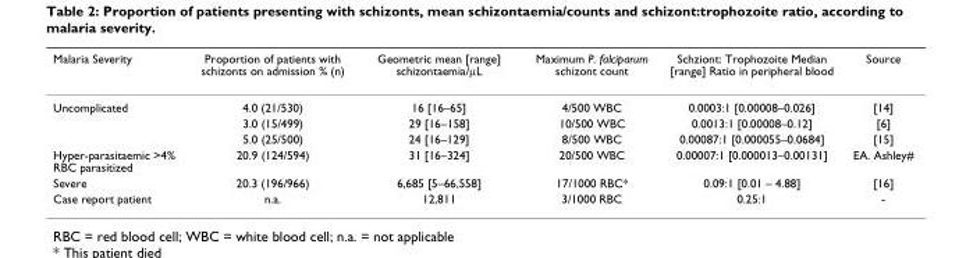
<table><thead><tr><td>Malaria Severity</td><td>Proportion of patients with schizonts on admission % (n)</td><td>Geometric mean [range] schizontaemia/µL</td><td>Maximum P. falciparum schizont count</td><td>Schziont: Trophozoite Median [range] Ratio in peripheral blood</td><td>Source</td></tr></thead><tbody><tr><td rowspan="3">Uncomplicated</td><td>4.0 (21/530)</td><td>16 [16–65]</td><td>4/500 WBC</td><td>0.0003:1 [0.00008–0.026]</td><td>[14]</td></tr><tr><td>3.0 (15/499)</td><td>29 [16–158]</td><td>10/500 WBC</td><td>0.0013:1 [0.00008–0.12]</td><td>[6]</td></tr><tr><td>5.0 (25/500)</td><td>24 [16–129]</td><td>8/500 WBC</td><td>0.00087:1 [0.000055–0.0684]</td><td>[15]</td></tr><tr><td>Hyper-parasitaemic &gt;4% RBC parasitized</td><td>20.9 (124/594)</td><td>31 [16–324]</td><td>20/500 WBC</td><td>0.00007:1 [0.000013–0.00131]</td><td>EA. Ashley#</td></tr><tr><td>Severe</td><td>20.3 (196/966)</td><td>6,685 [5–66,558]</td><td>17/1000 RBC*</td><td>0.09:1 [0.01 – 4.88]</td><td>[16]</td></tr><tr><td>Case report patient</td><td>n.a.</td><td>12,811</td><td>3/1000 RBC</td><td>0.25:1</td><td>-</td></tr></tbody></table>